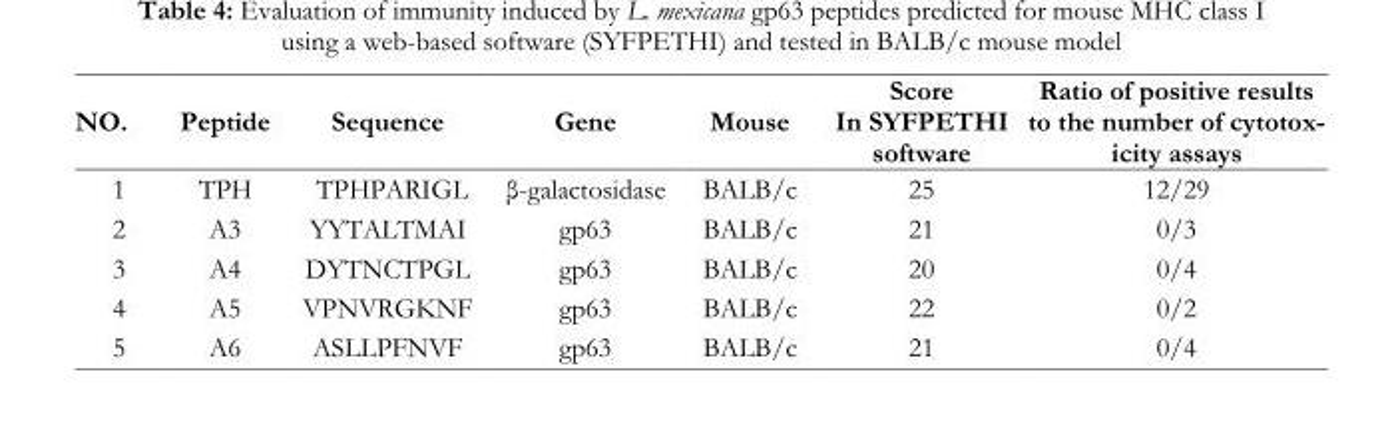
<table><thead><tr><td>NO.</td><td>Peptide</td><td>Sequence</td><td>Gene</td><td>Mouse</td><td>Score In SYFPETHI software</td><td>Ratio of positive results to the number of cytotox- icity assays</td></tr></thead><tbody><tr><td>1</td><td>TPH</td><td>TPHPARIGL</td><td>β-galactosidase</td><td>BALB/c</td><td>25</td><td>12/29</td></tr><tr><td>2</td><td>A3</td><td>YYTALTMAI</td><td>gp63</td><td>BALB/c</td><td>21</td><td>0/3</td></tr><tr><td>3</td><td>A4</td><td>DYTNCTPGL</td><td>gp63</td><td>BALB/c</td><td>20</td><td>0/4</td></tr><tr><td>4</td><td>A5</td><td>VPNVRGKNF</td><td>gp63</td><td>BALB/c</td><td>22</td><td>0/2</td></tr><tr><td>5</td><td>A6</td><td>ASLLPFNVF</td><td>gp63</td><td>BALB/c</td><td>21</td><td>0/4</td></tr></tbody></table>